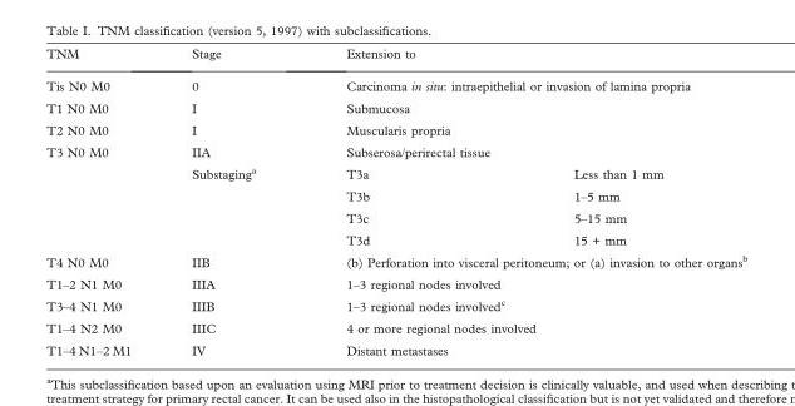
<table><thead><tr><td>TNM</td><td>Stage</td><td colspan="2">Extension to</td></tr></thead><tbody><tr><td>Tis N0 M0</td><td>0</td><td colspan="2">Carcinoma in situ: intraepithelial or invasion of lamina propria</td></tr><tr><td>T1 N0 M0</td><td>I</td><td colspan="2">Submucosa</td></tr><tr><td>T2 N0 M0</td><td>I</td><td colspan="2">Muscularis propria</td></tr><tr><td rowspan="5">T3 N0 M0</td><td>IIA</td><td colspan="2">Subserosa/perirectal tissue</td></tr><tr><td>Substaging<sup>a</sup></td><td>T3a</td><td>Less than 1 mm</td></tr><tr><td></td><td>T3b</td><td>1–5 mm</td></tr><tr><td></td><td>T3c</td><td>5–15 mm</td></tr><tr><td></td><td>T3d</td><td>15 + mm</td></tr><tr><td>T4 N0 M0</td><td>IIB</td><td colspan="2">(b) Perforation into visceral peritoneum; or (a) invasion to other organs<sup>b</sup></td></tr><tr><td>T1–2 N1 M0</td><td>IIIA</td><td colspan="2">1–3 regional nodes involved</td></tr><tr><td>T3–4 N1 M0</td><td>IIIB</td><td colspan="2">1–3 regional nodes involved<sup>c</sup></td></tr><tr><td>T1–4 N2 M0</td><td>IIIC</td><td colspan="2">4 or more regional nodes involved</td></tr><tr><td>T1–4 N1–2 M1</td><td>IV</td><td colspan="2">Distant metastases</td></tr></tbody></table>